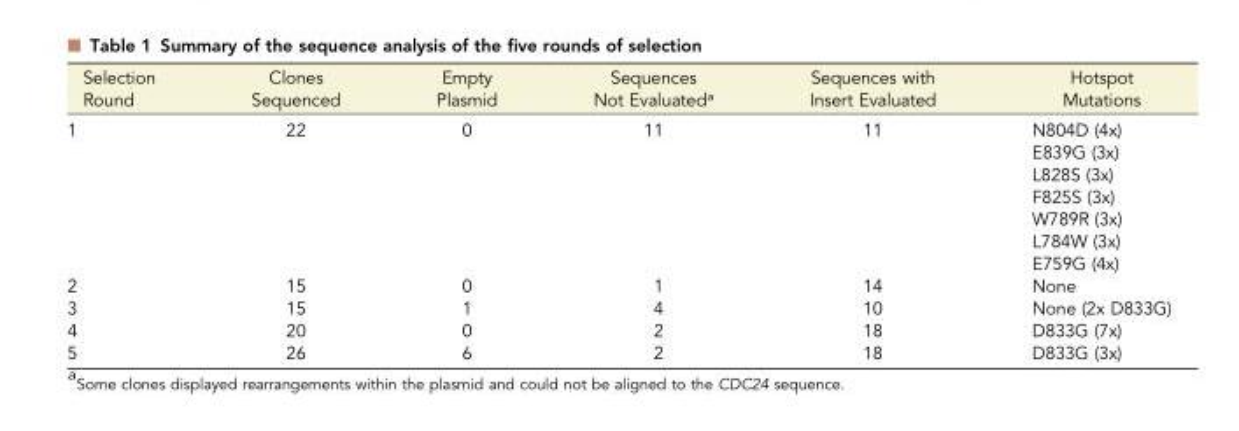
<table><thead><tr><td>Selection Round</td><td>Clones Sequenced</td><td>Empty Plasmid</td><td>Sequences Not Evaluated<sup>a</sup></td><td>Sequences with Insert Evaluated</td><td>Hotspot Mutations</td></tr></thead><tbody><tr><td rowspan="7">1</td><td rowspan="7">22</td><td rowspan="7">0</td><td rowspan="7">11</td><td rowspan="7">11</td><td>N804D (4x)</td></tr><tr><td>E839G (3x)</td></tr><tr><td>L828S (3x)</td></tr><tr><td>F825S (3x)</td></tr><tr><td>W789R (3x)</td></tr><tr><td>L784W (3x)</td></tr><tr><td>E759G (4x)</td></tr><tr><td>2</td><td>15</td><td>0</td><td>1</td><td>14</td><td>None</td></tr><tr><td>3</td><td>15</td><td>1</td><td>4</td><td>10</td><td>None (2x D833G)</td></tr><tr><td>4</td><td>20</td><td>0</td><td>2</td><td>18</td><td>D833G (7x)</td></tr><tr><td>5</td><td>26</td><td>6</td><td>2</td><td>18</td><td>D833G (3x)</td></tr></tbody></table>